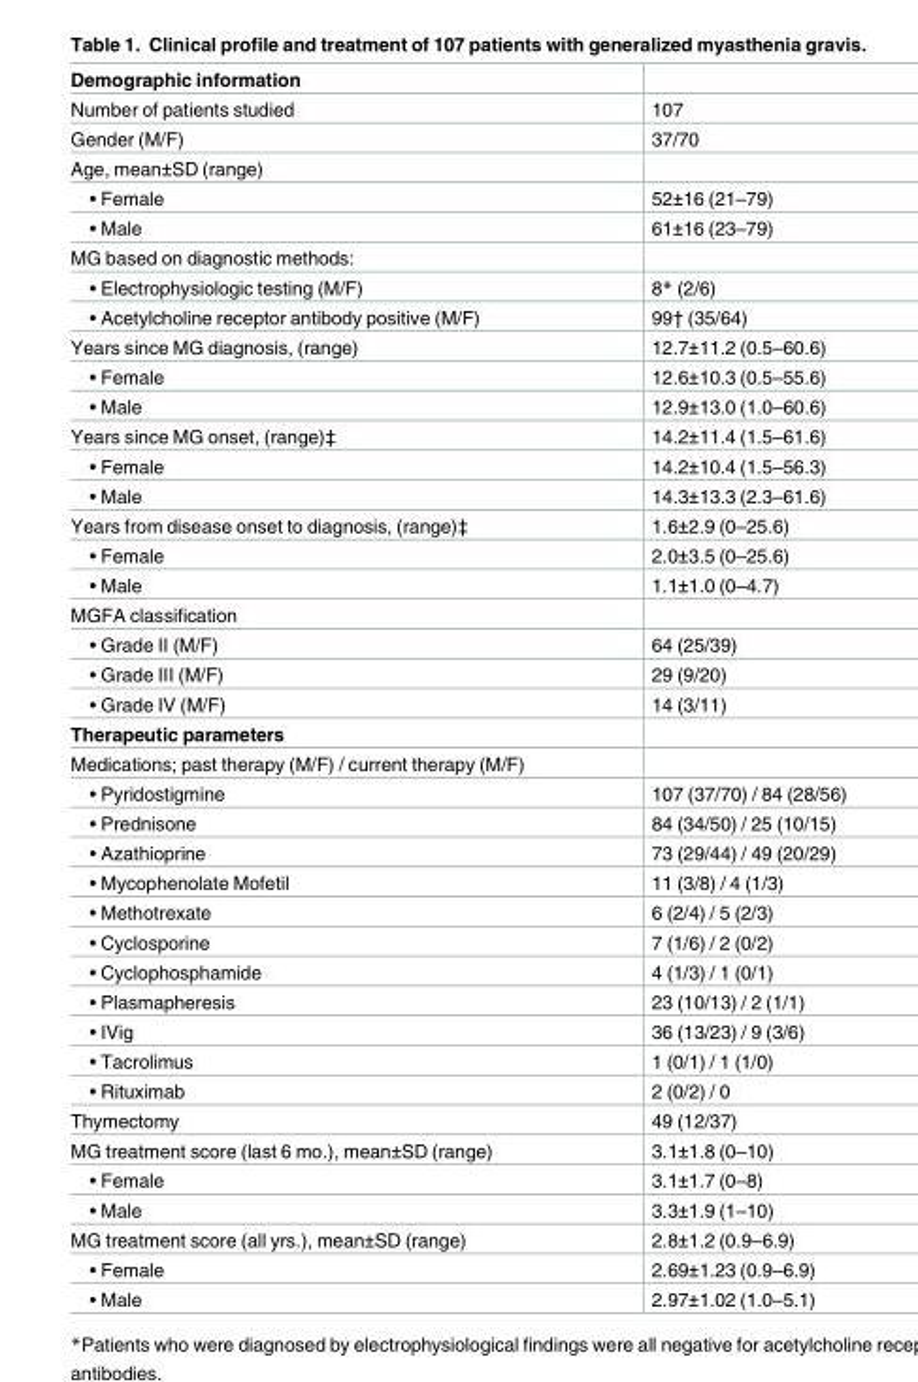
<table><tbody><tr><td colspan="2">Demographic information</td></tr><tr><td>Number of patients studied</td><td>107</td></tr><tr><td>Gender (M/F)</td><td>37/70</td></tr><tr><td colspan="2">Age, mean±SD (range)</td></tr><tr><td>• Female</td><td>52±16 (21–79)</td></tr><tr><td>• Male</td><td>61±16 (23–79)</td></tr><tr><td colspan="2">MG based on diagnostic methods:</td></tr><tr><td>• Electrophysiologic testing (M/F)</td><td>8* (2/6)</td></tr><tr><td>• Acetylcholine receptor antibody positive (M/F)</td><td>99† (35/64)</td></tr><tr><td>Years since MG diagnosis, (range)</td><td>12.7±11.2 (0.5–60.6)</td></tr><tr><td>• Female</td><td>12.6±10.3 (0.5–55.6)</td></tr><tr><td>• Male</td><td>12.9±13.0 (1.0–60.6)</td></tr><tr><td>Years since MG onset, (range)‡</td><td>14.2±11.4 (1.5–61.6)</td></tr><tr><td>• Female</td><td>14.2±10.4 (1.5–56.3)</td></tr><tr><td>• Male</td><td>14.3±13.3 (2.3–61.6)</td></tr><tr><td>Years from disease onset to diagnosis, (range)‡</td><td>1.6±2.9 (0–25.6)</td></tr><tr><td>• Female</td><td>2.0±3.5 (0–25.6)</td></tr><tr><td>• Male</td><td>1.1±1.0 (0–4.7)</td></tr><tr><td colspan="2">MGFA classification</td></tr><tr><td>• Grade II (M/F)</td><td>64 (25/39)</td></tr><tr><td>• Grade III (M/F)</td><td>29 (9/20)</td></tr><tr><td>• Grade IV (M/F)</td><td>14 (3/11)</td></tr><tr><td colspan="2">Therapeutic parameters</td></tr><tr><td colspan="2">Medications; past therapy (M/F) / current therapy (M/F)</td></tr><tr><td>• Pyridostigmine</td><td>107 (37/70) / 84 (28/56)</td></tr><tr><td>• Prednisone</td><td>84 (34/50) / 25 (10/15)</td></tr><tr><td>• Azathioprine</td><td>73 (29/44) / 49 (20/29)</td></tr><tr><td>• Mycophenolate Mofetil</td><td>11 (3/8) / 4 (1/3)</td></tr><tr><td>• Methotrexate</td><td>6 (2/4) / 5 (2/3)</td></tr><tr><td>• Cyclosporine</td><td>7 (1/6) / 2 (0/2)</td></tr><tr><td>• Cyclophosphamide</td><td>4 (1/3) / 1 (0/1)</td></tr><tr><td>• Plasmapheresis</td><td>23 (10/13) / 2 (1/1)</td></tr><tr><td>• IVig</td><td>36 (13/23) / 9 (3/6)</td></tr><tr><td>• Tacrolimus</td><td>1 (0/1) / 1 (1/0)</td></tr><tr><td>• Rituximab</td><td>2 (0/2) / 0</td></tr><tr><td>Thymectomy</td><td>49 (12/37)</td></tr><tr><td>MG treatment score (last 6 mo.), mean±SD (range)</td><td>3.1±1.8 (0–10)</td></tr><tr><td>• Female</td><td>3.1±1.7 (0–8)</td></tr><tr><td>• Male</td><td>3.3±1.9 (1–10)</td></tr><tr><td>MG treatment score (all yrs.), mean±SD (range)</td><td>2.8±1.2 (0.9–6.9)</td></tr><tr><td>• Female</td><td>2.69±1.23 (0.9–6.9)</td></tr><tr><td>• Male</td><td>2.97±1.02 (1.0–5.1)</td></tr></tbody></table>